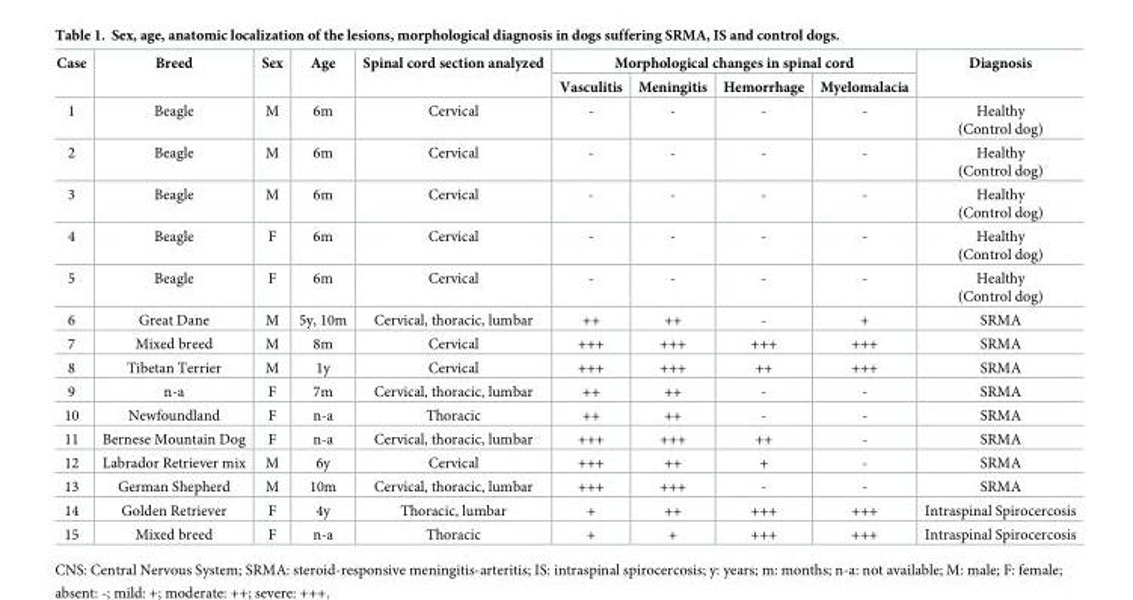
<table><thead><tr><td rowspan="2">Case</td><td rowspan="2">Breed</td><td rowspan="2">Sex</td><td rowspan="2">Age</td><td rowspan="2">Spinal cord section analyzed</td><td colspan="4">Morphological changes in spinal cord</td><td rowspan="2">Diagnosis</td></tr><tr><td>Vasculitis</td><td>Meningitis</td><td>Hemorrhage</td><td>Myelomalacia</td></tr></thead><tbody><tr><td>1</td><td>Beagle</td><td>M</td><td>6m</td><td>Cervical</td><td>-</td><td>-</td><td>-</td><td>-</td><td>Healthy (Control dog)</td></tr><tr><td>2</td><td>Beagle</td><td>M</td><td>6m</td><td>Cervical</td><td>-</td><td>-</td><td>-</td><td>-</td><td>Healthy (Control dog)</td></tr><tr><td>3</td><td>Beagle</td><td>M</td><td>6m</td><td>Cervical</td><td>-</td><td>-</td><td>-</td><td>-</td><td>Healthy (Control dog)</td></tr><tr><td>4</td><td>Beagle</td><td>F</td><td>6m</td><td>Cervical</td><td>-</td><td>-</td><td>-</td><td>-</td><td>Healthy (Control dog)</td></tr><tr><td>5</td><td>Beagle</td><td>F</td><td>6m</td><td>Cervical</td><td>-</td><td>-</td><td>-</td><td>-</td><td>Healthy (Control dog)</td></tr><tr><td>6</td><td>Great Dane</td><td>M</td><td>5y, 10m</td><td>Cervical, thoracic, lumbar</td><td>++</td><td>++</td><td>-</td><td>+</td><td>SRMA</td></tr><tr><td>7</td><td>Mixed breed</td><td>M</td><td>8m</td><td>Cervical</td><td>+++</td><td>+++</td><td>+++</td><td>+++</td><td>SRMA</td></tr><tr><td>8</td><td>Tibetan Terrier</td><td>M</td><td>1y</td><td>Cervical</td><td>+++</td><td>+++</td><td>++</td><td>+++</td><td>SRMA</td></tr><tr><td>9</td><td>n-a</td><td>F</td><td>7m</td><td>Cervical, thoracic, lumbar</td><td>++</td><td>++</td><td>-</td><td>-</td><td>SRMA</td></tr><tr><td>10</td><td>Newfoundland</td><td>F</td><td>n-a</td><td>Thoracic</td><td>++</td><td>++</td><td>-</td><td>-</td><td>SRMA</td></tr><tr><td>11</td><td>Bernese Mountain Dog</td><td>F</td><td>n-a</td><td>Cervical, thoracic, lumbar</td><td>+++</td><td>+++</td><td>++</td><td>-</td><td>SRMA</td></tr><tr><td>12</td><td>Labrador Retriever mix</td><td>M</td><td>6y</td><td>Cervical</td><td>+++</td><td>++</td><td>+</td><td>-</td><td>SRMA</td></tr><tr><td>13</td><td>German Shepherd</td><td>M</td><td>10m</td><td>Cervical, thoracic, lumbar</td><td>+++</td><td>+++</td><td>-</td><td>-</td><td>SRMA</td></tr><tr><td>14</td><td>Golden Retriever</td><td>F</td><td>4y</td><td>Thoracic, lumbar</td><td>+</td><td>++</td><td>+++</td><td>+++</td><td>Intraspinal Spirocercosis</td></tr><tr><td>15</td><td>Mixed breed</td><td>F</td><td>n-a</td><td>Thoracic</td><td>+</td><td>+</td><td>+++</td><td>+++</td><td>Intraspinal Spirocercosis</td></tr></tbody></table>